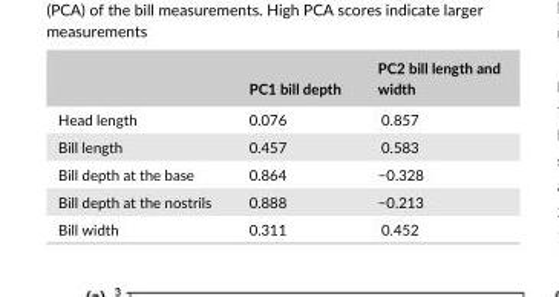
<table><thead><tr><td></td><td>PC1 bill depth</td><td>PC2 bill length and width</td></tr></thead><tbody><tr><td>Head length</td><td>0.076</td><td>0.857</td></tr><tr><td>Bill length</td><td>0.457</td><td>0.583</td></tr><tr><td>Bill depth at the base</td><td>0.864</td><td>−0.328</td></tr><tr><td>Bill depth at the nostrils</td><td>0.888</td><td>−0.213</td></tr><tr><td>Bill width</td><td>0.311</td><td>0.452</td></tr></tbody></table>